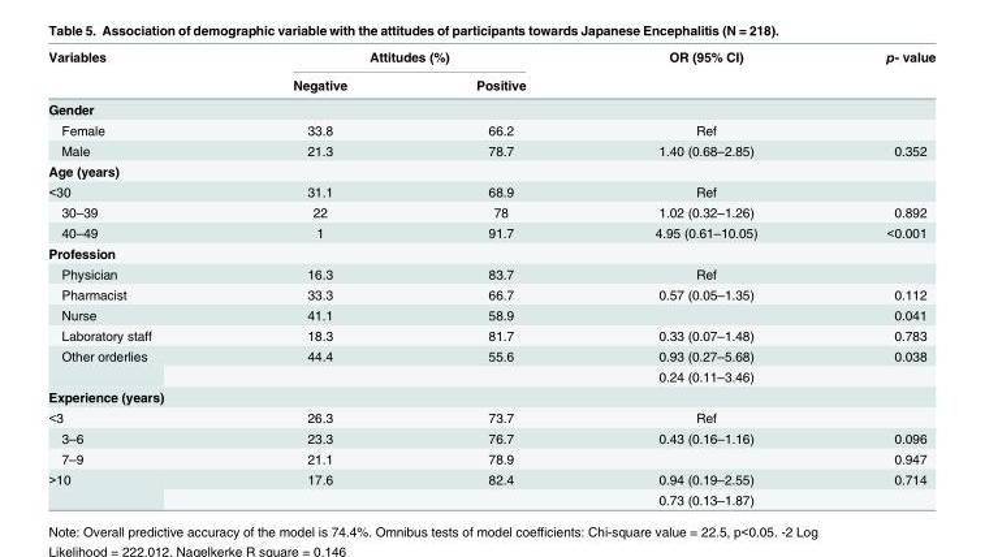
<table><thead><tr><td rowspan="2">Variables</td><td colspan="2">Attitudes (%)</td><td rowspan="2">OR (95% CI)</td><td rowspan="2">p- value</td></tr><tr><td>Negative</td><td>Positive</td></tr></thead><tbody><tr><td colspan="5">Gender</td></tr><tr><td>Female</td><td>33.8</td><td>66.2</td><td>Ref</td><td></td></tr><tr><td>Male</td><td>21.3</td><td>78.7</td><td>1.40 (0.68–2.85)</td><td>0.352</td></tr><tr><td colspan="5">Age (years)</td></tr><tr><td>&lt;30</td><td>31.1</td><td>68.9</td><td>Ref</td><td></td></tr><tr><td>30–39</td><td>22</td><td>78</td><td>1.02 (0.32–1.26)</td><td>0.892</td></tr><tr><td>40–49</td><td>1</td><td>91.7</td><td>4.95 (0.61–10.05)</td><td>&lt;0.001</td></tr><tr><td colspan="5">Profession</td></tr><tr><td>Physician</td><td>16.3</td><td>83.7</td><td>Ref</td><td></td></tr><tr><td>Pharmacist</td><td>33.3</td><td>66.7</td><td>0.57 (0.05–1.35)</td><td>0.112</td></tr><tr><td>Nurse</td><td>41.1</td><td>58.9</td><td></td><td>0.041</td></tr><tr><td>Laboratory staff</td><td>18.3</td><td>81.7</td><td>0.33 (0.07–1.48)</td><td>0.783</td></tr><tr><td rowspan="2">Other orderlies</td><td>44.4</td><td>55.6</td><td>0.93 (0.27–5.68)</td><td>0.038</td></tr><tr><td></td><td></td><td>0.24 (0.11–3.46)</td><td></td></tr><tr><td colspan="5">Experience (years)</td></tr><tr><td>&lt;3</td><td>26.3</td><td>73.7</td><td>Ref</td><td></td></tr><tr><td>3–6</td><td>23.3</td><td>76.7</td><td>0.43 (0.16–1.16)</td><td>0.096</td></tr><tr><td>7–9</td><td>21.1</td><td>78.9</td><td></td><td>0.947</td></tr><tr><td rowspan="2">&gt;10</td><td>17.6</td><td>82.4</td><td>0.94 (0.19–2.55)</td><td>0.714</td></tr><tr><td></td><td></td><td>0.73 (0.13–1.87)</td><td></td></tr></tbody></table>